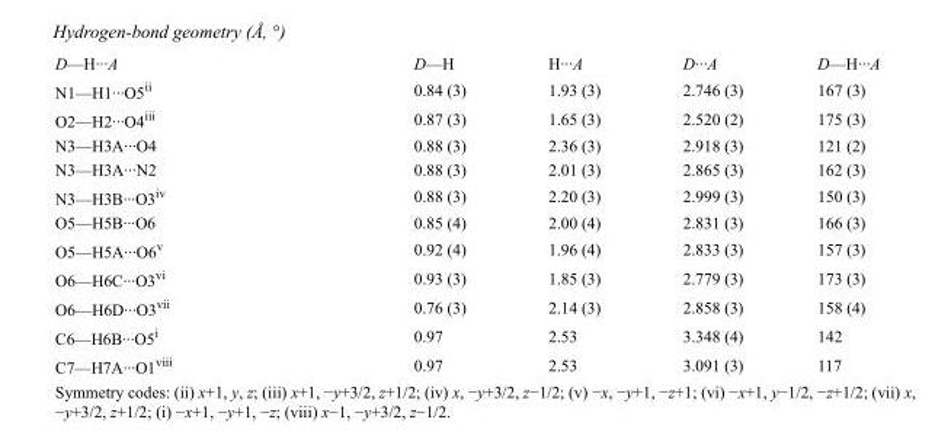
<table><tbody><tr><td>D—H···A</td><td>D—H</td><td>H···A</td><td>D···A</td><td>D—H···A</td></tr><tr><td>N1—H1···O5<sup>ii</sup></td><td>0.84 (3)</td><td>1.93 (3)</td><td>2.746 (3)</td><td>167 (3)</td></tr><tr><td>O2—H2···O4<sup>iii</sup></td><td>0.87 (3)</td><td>1.65 (3)</td><td>2.520 (2)</td><td>175 (3)</td></tr><tr><td>N3—H3A···O4</td><td>0.88 (3)</td><td>2.36 (3)</td><td>2.918 (3)</td><td>121 (2)</td></tr><tr><td>N3—H3A···N2</td><td>0.88 (3)</td><td>2.01 (3)</td><td>2.865 (3)</td><td>162 (3)</td></tr><tr><td>N3—H3B···O3<sup>iv</sup></td><td>0.88 (3)</td><td>2.20 (3)</td><td>2.999 (3)</td><td>150 (3)</td></tr><tr><td>O5—H5B···O6</td><td>0.85 (4)</td><td>2.00 (4)</td><td>2.831 (3)</td><td>166 (3)</td></tr><tr><td>O5—H5A···O6<sup>v</sup></td><td>0.92 (4)</td><td>1.96 (4)</td><td>2.833 (3)</td><td>157 (3)</td></tr><tr><td>O6—H6C···O3<sup>vi</sup></td><td>0.93 (3)</td><td>1.85 (3)</td><td>2.779 (3)</td><td>173 (3)</td></tr><tr><td>O6—H6D···O3<sup>vii</sup></td><td>0.76 (3)</td><td>2.14 (3)</td><td>2.858 (3)</td><td>158 (4)</td></tr><tr><td>C6—H6B···O5<sup>i</sup></td><td>0.97</td><td>2.53</td><td>3.348 (4)</td><td>142</td></tr><tr><td>C7—H7A···O1<sup>viii</sup></td><td>0.97</td><td>2.53</td><td>3.091 (3)</td><td>117</td></tr></tbody></table>